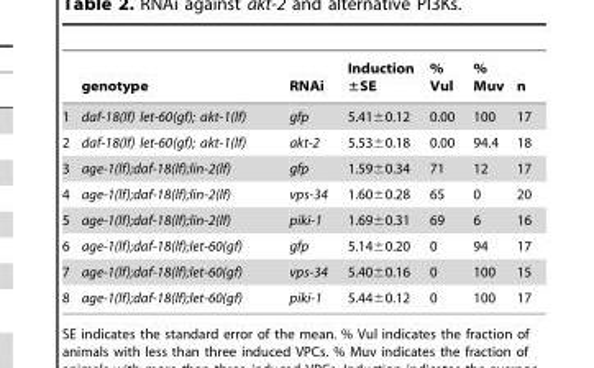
<table><thead><tr><td></td><td>genotype</td><td>RNAi</td><td>Induction ±SE</td><td>% Vul</td><td>% Muv</td><td>n</td></tr></thead><tbody><tr><td>1</td><td>daf-18(lf) let-60(gf); akt-1(lf)</td><td>gfp</td><td>5.41±0.12</td><td>0.00</td><td>100</td><td>17</td></tr><tr><td>2</td><td>daf-18(lf) let-60(gf); akt-1(lf)</td><td>akt-2</td><td>5.53±0.18</td><td>0.00</td><td>94.4</td><td>18</td></tr><tr><td>3</td><td>age-1(lf);daf-18(lf);lin-2(lf)</td><td>gfp</td><td>1.59±0.34</td><td>71</td><td>12</td><td>17</td></tr><tr><td>4</td><td>age-1(lf);daf-18(lf);lin-2(lf)</td><td>vps-34</td><td>1.60±0.28</td><td>65</td><td>0</td><td>20</td></tr><tr><td>5</td><td>age-1(lf);daf-18(lf);lin-2(lf)</td><td>piki-1</td><td>1.69±0.31</td><td>69</td><td>6</td><td>16</td></tr><tr><td>6</td><td>age-1(lf);daf-18(lf);let-60(gf)</td><td>gfp</td><td>5.14±0.20</td><td>0</td><td>94</td><td>17</td></tr><tr><td>7</td><td>age-1(lf);daf-18(lf);let-60(gf)</td><td>vps-34</td><td>5.40±0.16</td><td>0</td><td>100</td><td>15</td></tr><tr><td>8</td><td>age-1(lf);daf-18(lf);let-60(gf)</td><td>piki-1</td><td>5.44±0.12</td><td>0</td><td>100</td><td>17</td></tr></tbody></table>